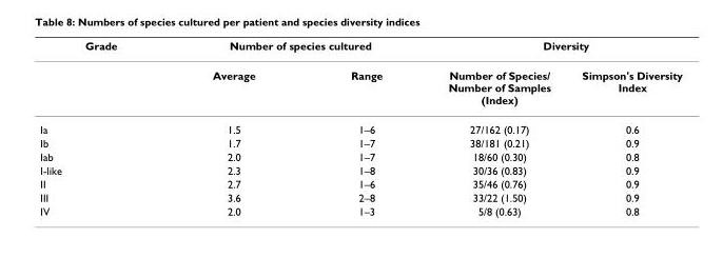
<table><thead><tr><td rowspan="2">Grade</td><td colspan="2">Number of species cultured</td><td colspan="2">Diversity</td></tr><tr><td>Average</td><td>Range</td><td>Number of Species/ Number of Samples (Index)</td><td>Simpson&#x27;s Diversity Index</td></tr></thead><tbody><tr><td>Ia</td><td>1.5</td><td>1–6</td><td>27/162 (0.17)</td><td>0.6</td></tr><tr><td>Ib</td><td>1.7</td><td>1–7</td><td>38/181 (0.21)</td><td>0.9</td></tr><tr><td>Iab</td><td>2.0</td><td>1–7</td><td>18/60 (0.30)</td><td>0.8</td></tr><tr><td>I-like</td><td>2.3</td><td>1–8</td><td>30/36 (0.83)</td><td>0.9</td></tr><tr><td>II</td><td>2.7</td><td>1–6</td><td>35/46 (0.76)</td><td>0.9</td></tr><tr><td>III</td><td>3.6</td><td>2–8</td><td>33/22 (1.50)</td><td>0.9</td></tr><tr><td>IV</td><td>2.0</td><td>1–3</td><td>5/8 (0.63)</td><td>0.8</td></tr></tbody></table>